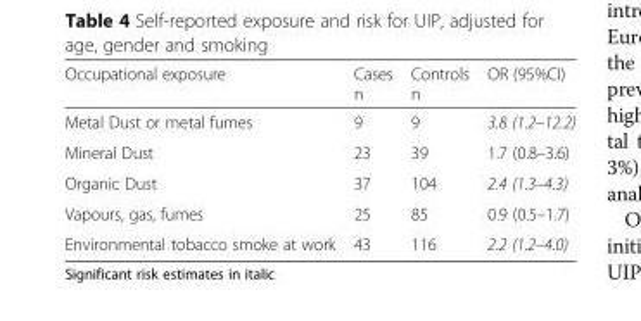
<table><thead><tr><td>Occupational exposure</td><td>Cases n</td><td>Controls n</td><td>OR (95%CI)</td></tr></thead><tbody><tr><td>Metal Dust or metal fumes</td><td>9</td><td>9</td><td>3.8 (1.2–12.2)</td></tr><tr><td>Mineral Dust</td><td>23</td><td>39</td><td>1.7 (0.8–3.6)</td></tr><tr><td>Organic Dust</td><td>37</td><td>104</td><td>2.4 (1.3–4.3)</td></tr><tr><td>Vapours, gas, fumes</td><td>25</td><td>85</td><td>0.9 (0.5–1.7)</td></tr><tr><td>Environmental tobacco smoke at work</td><td>43</td><td>116</td><td>2.2 (1.2–4.0)</td></tr></tbody></table>